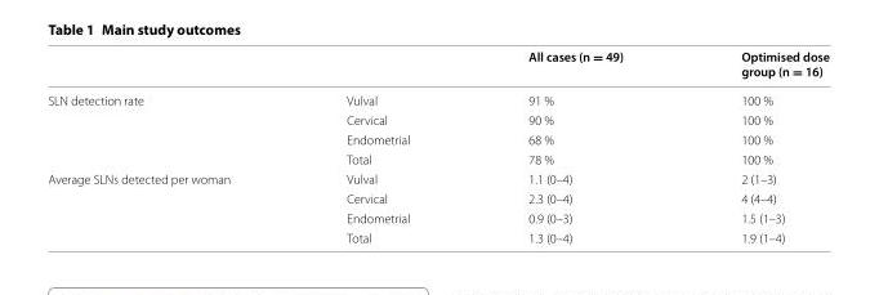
<table><thead><tr><td></td><td></td><td>All cases (n = 49)</td><td>Optimised dose group (n = 16)</td></tr></thead><tbody><tr><td rowspan="4">SLN detection rate</td><td>Vulval</td><td>91 %</td><td>100 %</td></tr><tr><td>Cervical</td><td>90 %</td><td>100 %</td></tr><tr><td>Endometrial</td><td>68 %</td><td>100 %</td></tr><tr><td>Total</td><td>78 %</td><td>100 %</td></tr><tr><td rowspan="4">Average SLNs detected per woman</td><td>Vulval</td><td>1.1 (0–4)</td><td>2 (1–3)</td></tr><tr><td>Cervical</td><td>2.3 (0–4)</td><td>4 (4–4)</td></tr><tr><td>Endometrial</td><td>0.9 (0–3)</td><td>1.5 (1–3)</td></tr><tr><td>Total</td><td>1.3 (0–4)</td><td>1.9 (1–4)</td></tr></tbody></table>